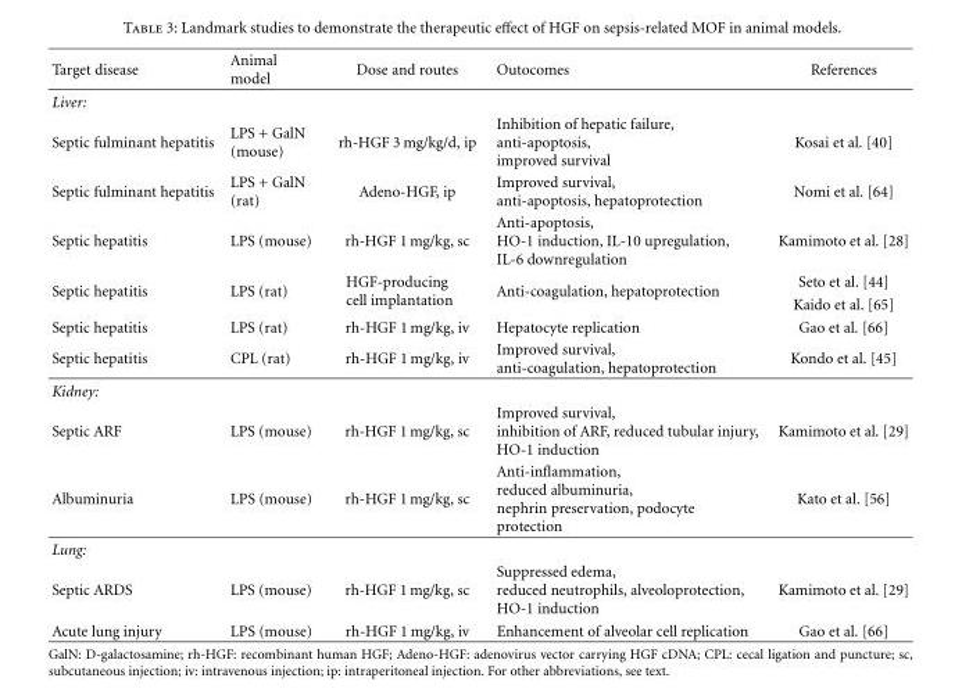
<table><thead><tr><td>Target disease</td><td>Animal model</td><td>Dose and routes</td><td>Outocomes</td><td>References</td></tr></thead><tbody><tr><td colspan="5">Liver:</td></tr><tr><td>Septic fulminant hepatitis</td><td>LPS + GalN (mouse)</td><td>rh-HGF 3 mg/kg/d, ip</td><td>Inhibition of hepatic failure, anti-apoptosis, improved survival</td><td>Kosai et al. [40]</td></tr><tr><td>Septic fulminant hepatitis</td><td>LPS + GalN (rat)</td><td>Adeno-HGF, ip</td><td>Improved survival, anti-apoptosis, hepatoprotection</td><td>Nomi et al. [64]</td></tr><tr><td>Septic hepatitis</td><td>LPS (mouse)</td><td>rh-HGF 1 mg/kg, sc</td><td>Anti-apoptosis, HO-1 induction, IL-10 upregulation, IL-6 downregulation</td><td>Kamimoto et al. [28]</td></tr><tr><td rowspan="2">Septic hepatitis</td><td rowspan="2">LPS (rat)</td><td rowspan="2">HGF-producing cell implantation</td><td rowspan="2">Anti-coagulation, hepatoprotection</td><td>Seto et al. [44]</td></tr><tr><td>Kaido et al. [65]</td></tr><tr><td>Septic hepatitis</td><td>LPS (rat)</td><td>rh-HGF 1 mg/kg, iv</td><td>Hepatocyte replication</td><td>Gao et al. [66]</td></tr><tr><td>Septic hepatitis</td><td>CPL (rat)</td><td>rh-HGF 1 mg/kg, iv</td><td>Improved survival, anti-coagulation, hepatoprotection</td><td>Kondo et al. [45]</td></tr><tr><td colspan="5">Kidney:</td></tr><tr><td>Septic ARF</td><td>LPS (mouse)</td><td>rh-HGF 1 mg/kg, sc</td><td>Improved survival, inhibition of ARF, reduced tubular injury, HO-1 induction</td><td>Kamimoto et al. [29]</td></tr><tr><td>Albuminuria</td><td>LPS (mouse)</td><td>rh-HGF 1 mg/kg, sc</td><td>Anti-inflammation, reduced albuminuria, nephrin preservation, podocyte protection</td><td>Kato et al. [56]</td></tr><tr><td colspan="5">Lung:</td></tr><tr><td>Septic ARDS</td><td>LPS (mouse)</td><td>rh-HGF 1 mg/kg, sc</td><td>Suppressed edema, reduced neutrophils, alveoloprotection, HO-1 induction</td><td>Kamimoto et al. [29]</td></tr><tr><td>Acute lung injury</td><td>LPS (mouse)</td><td>rh-HGF 1 mg/kg, iv</td><td>Enhancement of alveolar cell replication</td><td>Gao et al. [66]</td></tr></tbody></table>